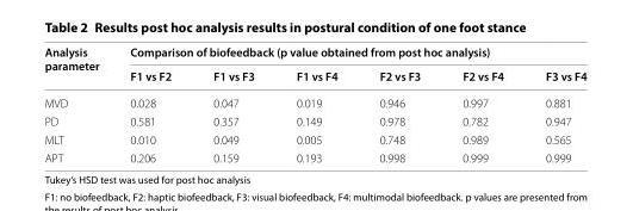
<table><thead><tr><td rowspan="2">Analysis parameter</td><td colspan="6">Comparison of biofeedback (p value obtained from post hoc analysis)</td></tr><tr><td>F1 vs F2</td><td>F1 vs F3</td><td>F1 vs F4</td><td>F2 vs F3</td><td>F2 vs F4</td><td>F3 vs F4</td></tr></thead><tbody><tr><td>MVD</td><td>0.028</td><td>0.047</td><td>0.019</td><td>0.946</td><td>0.997</td><td>0.881</td></tr><tr><td>PD</td><td>0.581</td><td>0.357</td><td>0.149</td><td>0.978</td><td>0.782</td><td>0.947</td></tr><tr><td>MLT</td><td>0.010</td><td>0.049</td><td>0.005</td><td>0.748</td><td>0.989</td><td>0.565</td></tr><tr><td>APT</td><td>0.206</td><td>0.159</td><td>0.193</td><td>0.998</td><td>0.999</td><td>0.999</td></tr></tbody></table>